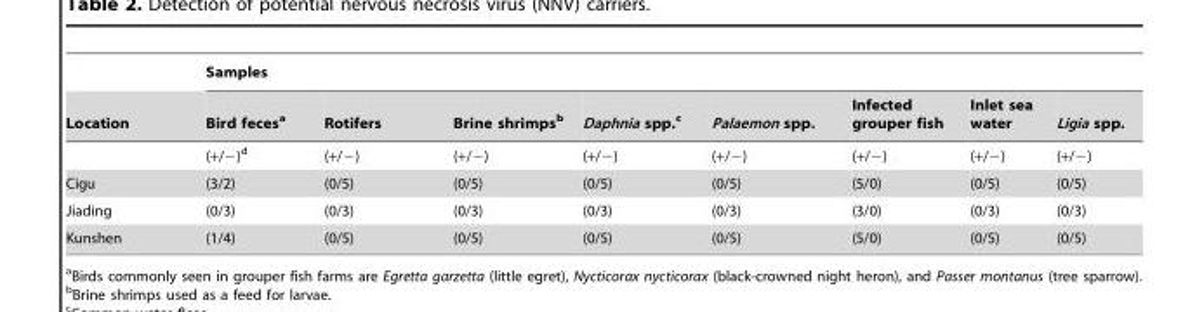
<table><thead><tr><td rowspan="2">Location</td><td colspan="8">Samples</td></tr><tr><td>Bird feces<sup>a</sup></td><td>Rotifers</td><td>Brine shrimps<sup>b</sup></td><td>Daphnia spp.<sup>c</sup></td><td>Palaemon spp.</td><td>Infected grouper fish</td><td>Inlet sea water</td><td>Ligia spp.</td></tr></thead><tbody><tr><td></td><td>(+/−)<sup>d</sup></td><td>(+/−)</td><td>(+/−)</td><td>(+/−)</td><td>(+/−)</td><td>(+/−)</td><td>(+/−)</td><td>(+/−)</td></tr><tr><td>Cigu</td><td>(3/2)</td><td>(0/5)</td><td>(0/5)</td><td>(0/5)</td><td>(0/5)</td><td>(5/0)</td><td>(0/5)</td><td>(0/5)</td></tr><tr><td>Jiading</td><td>(0/3)</td><td>(0/3)</td><td>(0/3)</td><td>(0/3)</td><td>(0/3)</td><td>(3/0)</td><td>(0/3)</td><td>(0/3)</td></tr><tr><td>Kunshen</td><td>(1/4)</td><td>(0/5)</td><td>(0/5)</td><td>(0/5)</td><td>(0/5)</td><td>(5/0)</td><td>(0/5)</td><td>(0/5)</td></tr></tbody></table>